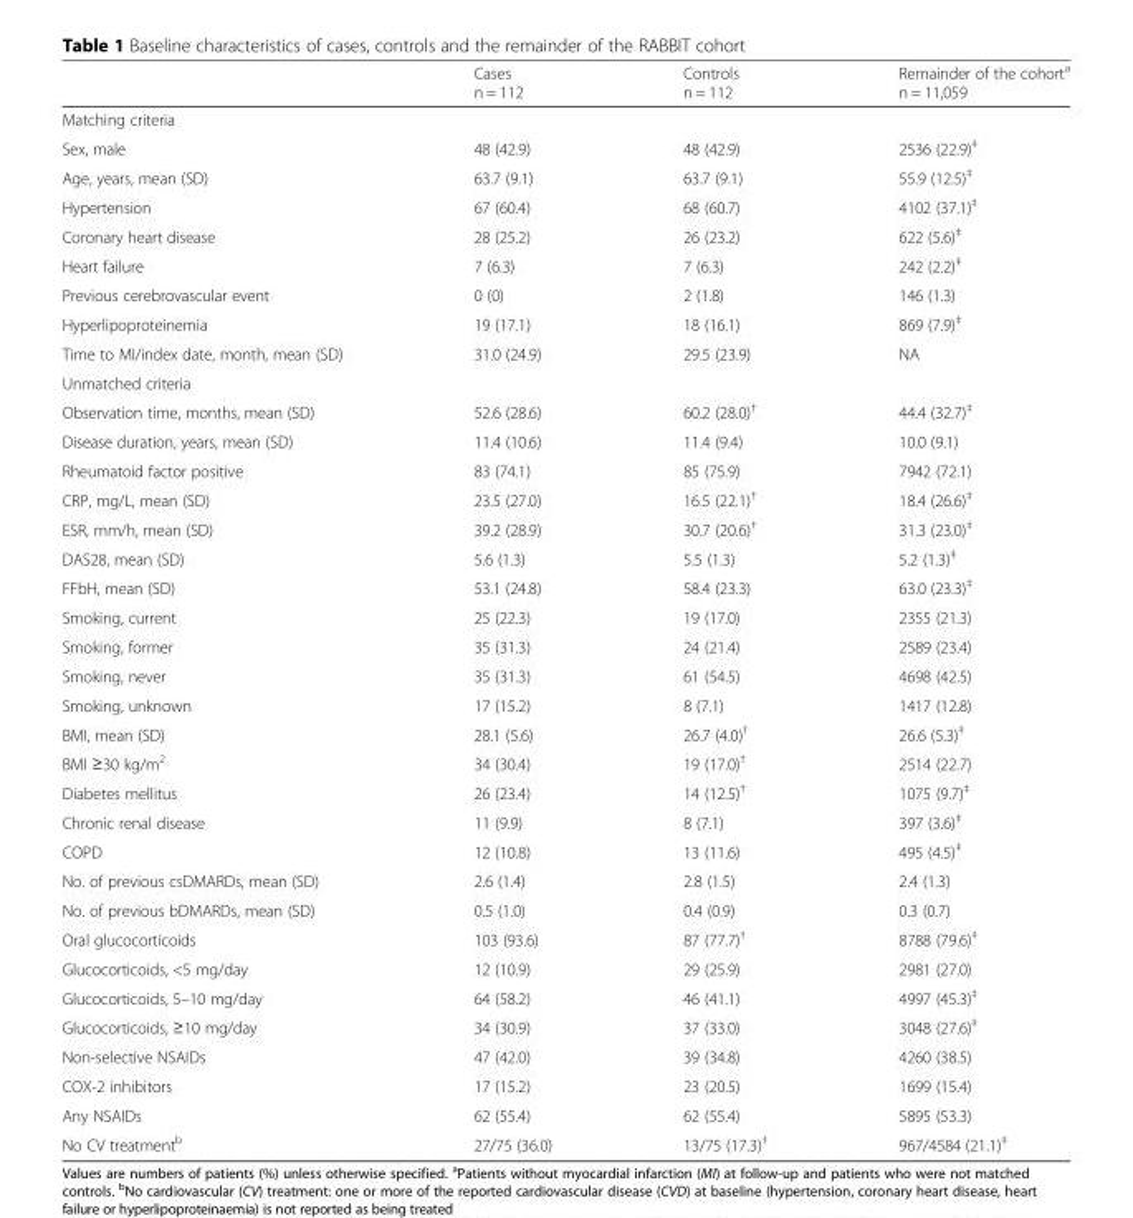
<table><thead><tr><td></td><td>Cases n = 112</td><td>Controls n = 112</td><td>Remainder of the cohort<sup>a</sup> n = 11,059</td></tr></thead><tbody><tr><td colspan="4">Matching criteria</td></tr><tr><td>Sex, male</td><td>48 (42.9)</td><td>48 (42.9)</td><td>2536 (22.9)<sup>‡</sup></td></tr><tr><td>Age, years, mean (SD)</td><td>63.7 (9.1)</td><td>63.7 (9.1)</td><td>55.9 (12.5)<sup>‡</sup></td></tr><tr><td>Hypertension</td><td>67 (60.4)</td><td>68 (60.7)</td><td>4102 (37.1)<sup>‡</sup></td></tr><tr><td>Coronary heart disease</td><td>28 (25.2)</td><td>26 (23.2)</td><td>622 (5.6)<sup>‡</sup></td></tr><tr><td>Heart failure</td><td>7 (6.3)</td><td>7 (6.3)</td><td>242 (2.2)<sup>‡</sup></td></tr><tr><td>Previous cerebrovascular event</td><td>0 (0)</td><td>2 (1.8)</td><td>146 (1.3)</td></tr><tr><td>Hyperlipoproteinemia</td><td>19 (17.1)</td><td>18 (16.1)</td><td>869 (7.9)<sup>‡</sup></td></tr><tr><td>Time to MI/index date, month, mean (SD)</td><td>31.0 (24.9)</td><td>29.5 (23.9)</td><td>NA</td></tr><tr><td colspan="4">Unmatched criteria</td></tr><tr><td>Observation time, months, mean (SD)</td><td>52.6 (28.6)</td><td>60.2 (28.0)<sup>†</sup></td><td>44.4 (32.7)<sup>‡</sup></td></tr><tr><td>Disease duration, years, mean (SD)</td><td>11.4 (10.6)</td><td>11.4 (9.4)</td><td>10.0 (9.1)</td></tr><tr><td>Rheumatoid factor positive</td><td>83 (74.1)</td><td>85 (75.9)</td><td>7942 (72.1)</td></tr><tr><td>CRP, mg/L, mean (SD)</td><td>23.5 (27.0)</td><td>16.5 (22.1)<sup>†</sup></td><td>18.4 (26.6)<sup>‡</sup></td></tr><tr><td>ESR, mm/h, mean (SD)</td><td>39.2 (28.9)</td><td>30.7 (20.6)<sup>†</sup></td><td>31.3 (23.0)<sup>‡</sup></td></tr><tr><td>DAS28, mean (SD)</td><td>5.6 (1.3)</td><td>5.5 (1.3)</td><td>5.2 (1.3)<sup>‡</sup></td></tr><tr><td>FFbH, mean (SD)</td><td>53.1 (24.8)</td><td>58.4 (23.3)</td><td>63.0 (23.3)<sup>‡</sup></td></tr><tr><td>Smoking, current</td><td>25 (22.3)</td><td>19 (17.0)</td><td>2355 (21.3)</td></tr><tr><td>Smoking, former</td><td>35 (31.3)</td><td>24 (21.4)</td><td>2589 (23.4)</td></tr><tr><td>Smoking, never</td><td>35 (31.3)</td><td>61 (54.5)</td><td>4698 (42.5)</td></tr><tr><td>Smoking, unknown</td><td>17 (15.2)</td><td>8 (7.1)</td><td>1417 (12.8)</td></tr><tr><td>BMI, mean (SD)</td><td>28.1 (5.6)</td><td>26.7 (4.0)<sup>†</sup></td><td>26.6 (5.3)<sup>‡</sup></td></tr><tr><td>BMI ≥30 kg/m<sup>2</sup></td><td>34 (30.4)</td><td>19 (17.0)<sup>†</sup></td><td>2514 (22.7)</td></tr><tr><td>Diabetes mellitus</td><td>26 (23.4)</td><td>14 (12.5)<sup>†</sup></td><td>1075 (9.7)<sup>‡</sup></td></tr><tr><td>Chronic renal disease</td><td>11 (9.9)</td><td>8 (7.1)</td><td>397 (3.6)<sup>‡</sup></td></tr><tr><td>COPD</td><td>12 (10.8)</td><td>13 (11.6)</td><td>495 (4.5)<sup>‡</sup></td></tr><tr><td>No. of previous csDMARDs, mean (SD)</td><td>2.6 (1.4)</td><td>2.8 (1.5)</td><td>2.4 (1.3)</td></tr><tr><td>No. of previous bDMARDs, mean (SD)</td><td>0.5 (1.0)</td><td>0.4 (0.9)</td><td>0.3 (0.7)</td></tr><tr><td>Oral glucocorticoids</td><td>103 (93.6)</td><td>87 (77.7)<sup>†</sup></td><td>8788 (79.6)<sup>‡</sup></td></tr><tr><td>Glucocorticoids, &lt;5 mg/day</td><td>12 (10.9)</td><td>29 (25.9)</td><td>2981 (27.0)</td></tr><tr><td>Glucocorticoids, 5–10 mg/day</td><td>64 (58.2)</td><td>46 (41.1)</td><td>4997 (45.3)<sup>‡</sup></td></tr><tr><td>Glucocorticoids, ≥10 mg/day</td><td>34 (30.9)</td><td>37 (33.0)</td><td>3048 (27.6)<sup>‡</sup></td></tr><tr><td>Non-selective NSAIDs</td><td>47 (42.0)</td><td>39 (34.8)</td><td>4260 (38.5)</td></tr><tr><td>COX-2 inhibitors</td><td>17 (15.2)</td><td>23 (20.5)</td><td>1699 (15.4)</td></tr><tr><td>Any NSAIDs</td><td>62 (55.4)</td><td>62 (55.4)</td><td>5895 (53.3)</td></tr><tr><td>No CV treatment<sup>b</sup></td><td>27/75 (36.0)</td><td>13/75 (17.3)<sup>†</sup></td><td>967/4584 (21.1)<sup>‡</sup></td></tr></tbody></table>